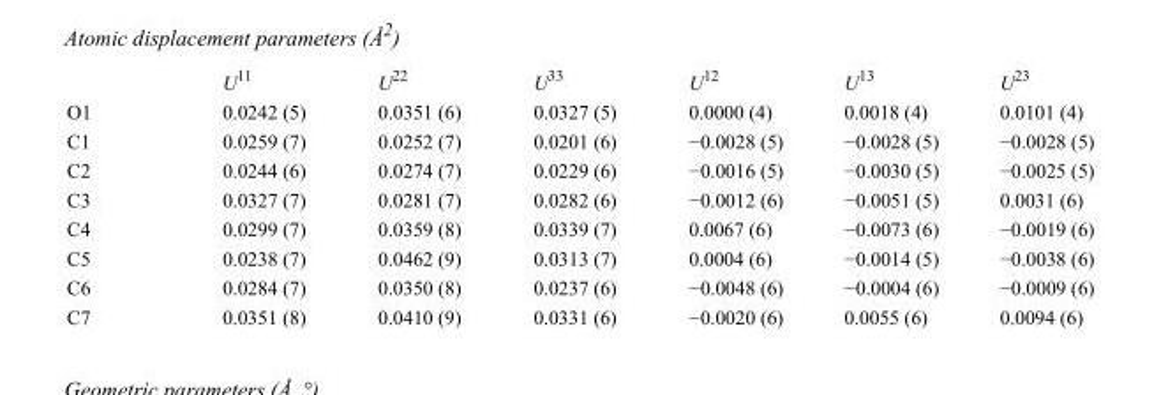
<table><thead><tr><td></td><td>U<sup>11</sup></td><td>U<sup>22</sup></td><td>U<sup>33</sup></td><td>U<sup>12</sup></td><td>U<sup>13</sup></td><td>U<sup>23</sup></td></tr></thead><tbody><tr><td>O1</td><td>0.0242 (5)</td><td>0.0351 (6)</td><td>0.0327 (5)</td><td>0.0000 (4)</td><td>0.0018 (4)</td><td>0.0101 (4)</td></tr><tr><td>C1</td><td>0.0259 (7)</td><td>0.0252 (7)</td><td>0.0201 (6)</td><td>−0.0028 (5)</td><td>−0.0028 (5)</td><td>−0.0028 (5)</td></tr><tr><td>C2</td><td>0.0244 (6)</td><td>0.0274 (7)</td><td>0.0229 (6)</td><td>−0.0016 (5)</td><td>−0.0030 (5)</td><td>−0.0025 (5)</td></tr><tr><td>C3</td><td>0.0327 (7)</td><td>0.0281 (7)</td><td>0.0282 (6)</td><td>−0.0012 (6)</td><td>−0.0051 (5)</td><td>0.0031 (6)</td></tr><tr><td>C4</td><td>0.0299 (7)</td><td>0.0359 (8)</td><td>0.0339 (7)</td><td>0.0067 (6)</td><td>−0.0073 (6)</td><td>−0.0019 (6)</td></tr><tr><td>C5</td><td>0.0238 (7)</td><td>0.0462 (9)</td><td>0.0313 (7)</td><td>0.0004 (6)</td><td>−0.0014 (5)</td><td>−0.0038 (6)</td></tr><tr><td>C6</td><td>0.0284 (7)</td><td>0.0350 (8)</td><td>0.0237 (6)</td><td>−0.0048 (6)</td><td>−0.0004 (6)</td><td>−0.0009 (6)</td></tr><tr><td>C7</td><td>0.0351 (8)</td><td>0.0410 (9)</td><td>0.0331 (6)</td><td>−0.0020 (6)</td><td>0.0055 (6)</td><td>0.0094 (6)</td></tr></tbody></table>